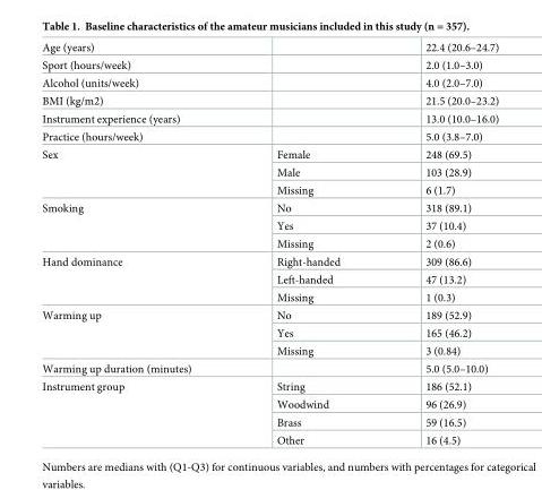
<table><tbody><tr><td>Age (years)</td><td></td><td>22.4 (20.6–24.7)</td></tr><tr><td>Sport (hours/week)</td><td></td><td>2.0 (1.0–3.0)</td></tr><tr><td>Alcohol (units/week)</td><td></td><td>4.0 (2.0–7.0)</td></tr><tr><td>BMI (kg/m2)</td><td></td><td>21.5 (20.0–23.2)</td></tr><tr><td>Instrument experience (years)</td><td></td><td>13.0 (10.0–16.0)</td></tr><tr><td>Practice (hours/week)</td><td></td><td>5.0 (3.8–7.0)</td></tr><tr><td rowspan="3">Sex</td><td>Female</td><td>248 (69.5)</td></tr><tr><td>Male</td><td>103 (28.9)</td></tr><tr><td>Missing</td><td>6 (1.7)</td></tr><tr><td rowspan="3">Smoking</td><td>No</td><td>318 (89.1)</td></tr><tr><td>Yes</td><td>37 (10.4)</td></tr><tr><td>Missing</td><td>2 (0.6)</td></tr><tr><td rowspan="3">Hand dominance</td><td>Right-handed</td><td>309 (86.6)</td></tr><tr><td>Left-handed</td><td>47 (13.2)</td></tr><tr><td>Missing</td><td>1 (0.3)</td></tr><tr><td rowspan="3">Warming up</td><td>No</td><td>189 (52.9)</td></tr><tr><td>Yes</td><td>165 (46.2)</td></tr><tr><td>Missing</td><td>3 (0.84)</td></tr><tr><td>Warming up duration (minutes)</td><td></td><td>5.0 (5.0–10.0)</td></tr><tr><td rowspan="4">Instrument group</td><td>String</td><td>186 (52.1)</td></tr><tr><td>Woodwind</td><td>96 (26.9)</td></tr><tr><td>Brass</td><td>59 (16.5)</td></tr><tr><td>Other</td><td>16 (4.5)</td></tr></tbody></table>